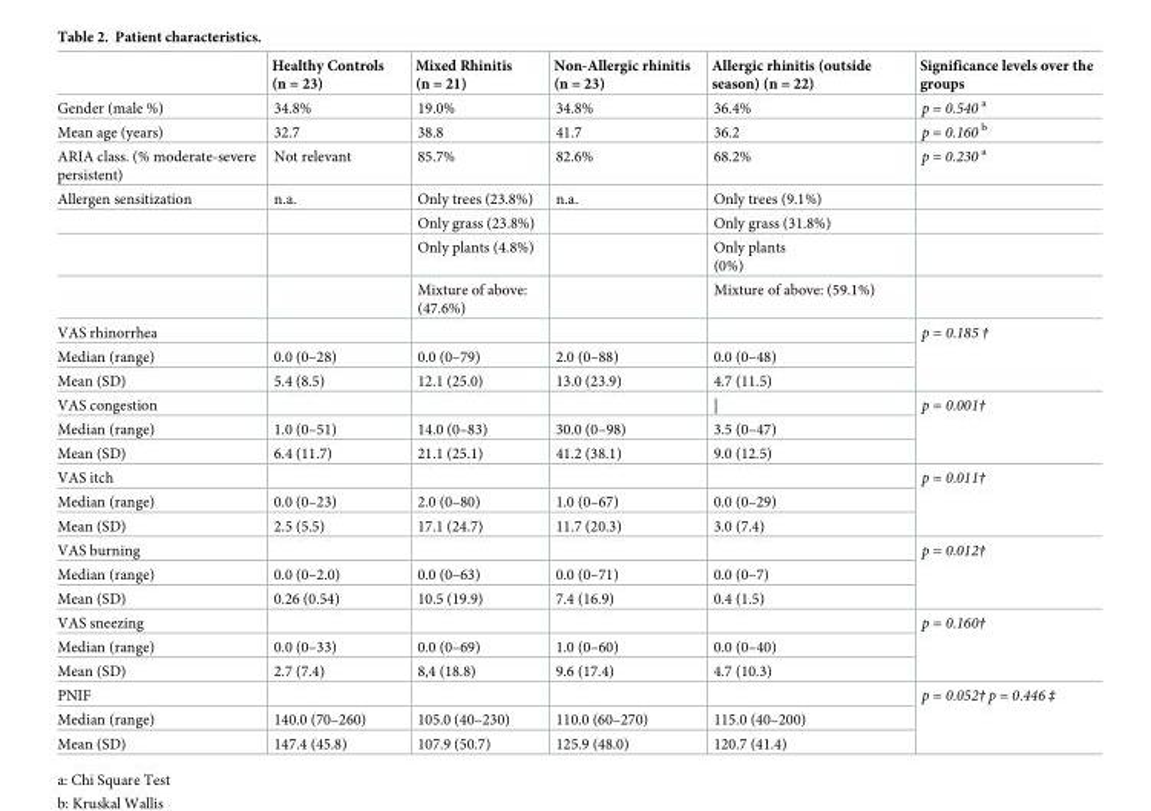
<table><thead><tr><td></td><td>Healthy Controls (n = 23)</td><td>Mixed Rhinitis (n = 21)</td><td>Non-Allergic rhinitis (n = 23)</td><td>Allergic rhinitis (outside season) (n = 22)</td><td>Significance levels over the groups</td></tr></thead><tbody><tr><td>Gender (male %)</td><td>34.8%</td><td>19.0%</td><td>34.8%</td><td>36.4%</td><td>p = 0.540 <sup>a</sup></td></tr><tr><td>Mean age (years)</td><td>32.7</td><td>38.8</td><td>41.7</td><td>36.2</td><td>p = 0.160 <sup>b</sup></td></tr><tr><td>ARIA class. (% moderate-severe persistent)</td><td>Not relevant</td><td>85.7%</td><td>82.6%</td><td>68.2%</td><td>p = 0.230 <sup>a</sup></td></tr><tr><td rowspan="4">Allergen sensitization</td><td>n.a.</td><td>Only trees (23.8%)</td><td>n.a.</td><td>Only trees (9.1%)</td><td></td></tr><tr><td></td><td>Only grass (23.8%)</td><td></td><td>Only grass (31.8%)</td><td></td></tr><tr><td></td><td>Only plants (4.8%)</td><td></td><td>Only plants (0%)</td><td></td></tr><tr><td></td><td>Mixture of above: (47.6%)</td><td></td><td>Mixture of above: (59.1%)</td><td></td></tr><tr><td colspan="5">VAS rhinorrhea</td><td rowspan="3">p = 0.185 †</td></tr><tr><td>Median (range)</td><td>0.0 (0–28)</td><td>0.0 (0–79)</td><td>2.0 (0–88)</td><td>0.0 (0–48)</td></tr><tr><td>Mean (SD)</td><td>5.4 (8.5)</td><td>12.1 (25.0)</td><td>13.0 (23.9)</td><td>4.7 (11.5)</td></tr><tr><td>VAS congestion</td><td></td><td></td><td></td><td>|</td><td rowspan="3">p = 0.001†</td></tr><tr><td>Median (range)</td><td>1.0 (0–51)</td><td>14.0 (0–83)</td><td>30.0 (0–98)</td><td>3.5 (0–47)</td></tr><tr><td>Mean (SD)</td><td>6.4 (11.7)</td><td>21.1 (25.1)</td><td>41.2 (38.1)</td><td>9.0 (12.5)</td></tr><tr><td colspan="5">VAS itch</td><td rowspan="3">p = 0.011†</td></tr><tr><td>Median (range)</td><td>0.0 (0–23)</td><td>2.0 (0–80)</td><td>1.0 (0–67)</td><td>0.0 (0–29)</td></tr><tr><td>Mean (SD)</td><td>2.5 (5.5)</td><td>17.1 (24.7)</td><td>11.7 (20.3)</td><td>3.0 (7.4)</td></tr><tr><td colspan="5">VAS burning</td><td rowspan="3">p = 0.012†</td></tr><tr><td>Median (range)</td><td>0.0 (0–2.0)</td><td>0.0 (0–63)</td><td>0.0 (0–71)</td><td>0.0 (0–7)</td></tr><tr><td>Mean (SD)</td><td>0.26 (0.54)</td><td>10.5 (19.9)</td><td>7.4 (16.9)</td><td>0.4 (1.5)</td></tr><tr><td colspan="5">VAS sneezing</td><td rowspan="3">p = 0.160†</td></tr><tr><td>Median (range)</td><td>0.0 (0–33)</td><td>0.0 (0–69)</td><td>1.0 (0–60)</td><td>0.0 (0–40)</td></tr><tr><td>Mean (SD)</td><td>2.7 (7.4)</td><td>8,4 (18.8)</td><td>9.6 (17.4)</td><td>4.7 (10.3)</td></tr><tr><td colspan="5">PNIF</td><td rowspan="3">p = 0.052† p = 0.446 ‡</td></tr><tr><td>Median (range)</td><td>140.0 (70–260)</td><td>105.0 (40–230)</td><td>110.0 (60–270)</td><td>115.0 (40–200)</td></tr><tr><td>Mean (SD)</td><td>147.4 (45.8)</td><td>107.9 (50.7)</td><td>125.9 (48.0)</td><td>120.7 (41.4)</td></tr></tbody></table>